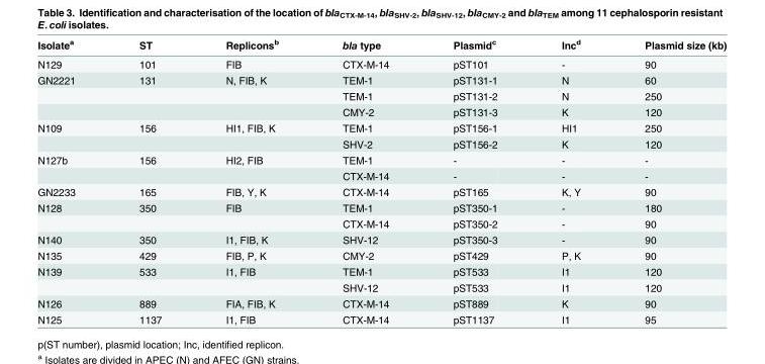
<table><thead><tr><td>Isolate<sup>a</sup></td><td>ST</td><td>Replicons<sup>b</sup></td><td>bla type</td><td>Plasmid<sup>c</sup></td><td>Inc<sup>d</sup></td><td>Plasmid size (kb)</td></tr></thead><tbody><tr><td>N129</td><td>101</td><td>FIB</td><td>CTX-M-14</td><td>pST101</td><td>-</td><td>90</td></tr><tr><td rowspan="3">GN2221</td><td>131</td><td>N, FIB, K</td><td>TEM-1</td><td>pST131-1</td><td>N</td><td>60</td></tr><tr><td></td><td></td><td>TEM-1</td><td>pST131-2</td><td>N</td><td>250</td></tr><tr><td></td><td></td><td>CMY-2</td><td>pST131-3</td><td>K</td><td>120</td></tr><tr><td rowspan="2">N109</td><td>156</td><td>HI1, FIB, K</td><td>TEM-1</td><td>pST156-1</td><td>HI1</td><td>250</td></tr><tr><td></td><td></td><td>SHV-2</td><td>pST156-2</td><td>K</td><td>120</td></tr><tr><td rowspan="2">N127b</td><td>156</td><td>HI2, FIB</td><td>TEM-1</td><td>-</td><td>-</td><td>-</td></tr><tr><td></td><td></td><td>CTX-M-14</td><td>-</td><td>-</td><td>-</td></tr><tr><td>GN2233</td><td>165</td><td>FIB, Y, K</td><td>CTX-M-14</td><td>pST165</td><td>K, Y</td><td>90</td></tr><tr><td rowspan="2">N128</td><td>350</td><td>FIB</td><td>TEM-1</td><td>pST350-1</td><td>-</td><td>180</td></tr><tr><td></td><td></td><td>CTX-M-14</td><td>pST350-2</td><td>-</td><td>90</td></tr><tr><td>N140</td><td>350</td><td>I1, FIB, K</td><td>SHV-12</td><td>pST350-3</td><td>-</td><td>90</td></tr><tr><td>N135</td><td>429</td><td>FIB, P, K</td><td>CMY-2</td><td>pST429</td><td>P, K</td><td>90</td></tr><tr><td rowspan="2">N139</td><td>533</td><td>I1, FIB</td><td>TEM-1</td><td>pST533</td><td>I1</td><td>120</td></tr><tr><td></td><td></td><td>SHV-12</td><td>pST533</td><td>I1</td><td>120</td></tr><tr><td>N126</td><td>889</td><td>FIA, FIB, K</td><td>CTX-M-14</td><td>pST889</td><td>K</td><td>90</td></tr><tr><td>N125</td><td>1137</td><td>I1, FIB</td><td>CTX-M-14</td><td>pST1137</td><td>I1</td><td>95</td></tr></tbody></table>